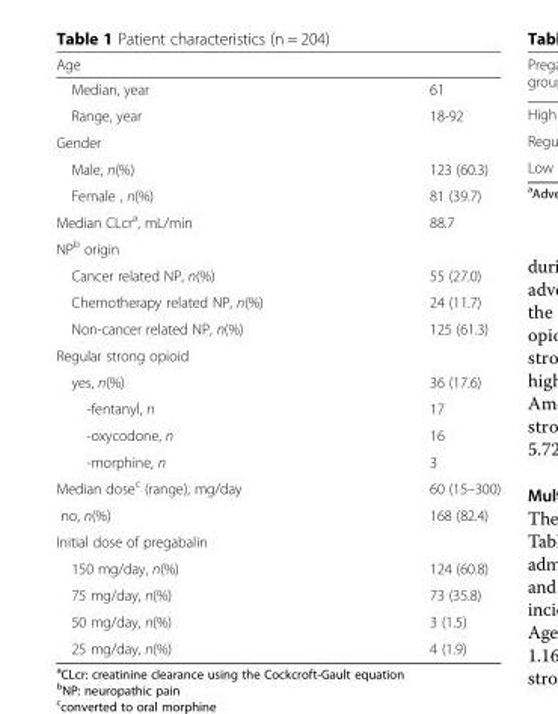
<table><thead><tr><td>Age</td><td></td></tr></thead><tbody><tr><td>Median, year</td><td>61</td></tr><tr><td>Range, year</td><td>18-92</td></tr><tr><td colspan="2">Gender</td></tr><tr><td>Male, n(%)</td><td>123 (60.3)</td></tr><tr><td>Female , n(%)</td><td>81 (39.7)</td></tr><tr><td>Median CLcr<sup>a</sup>, mL/min</td><td>88.7</td></tr><tr><td colspan="2">NP<sup>b</sup> origin</td></tr><tr><td>Cancer related NP, n(%)</td><td>55 (27.0)</td></tr><tr><td>Chemotherapy related NP, n(%)</td><td>24 (11.7)</td></tr><tr><td>Non-cancer related NP, n(%)</td><td>125 (61.3)</td></tr><tr><td colspan="2">Regular strong opioid</td></tr><tr><td>yes, n(%)</td><td>36 (17.6)</td></tr><tr><td>-fentanyl, n</td><td>17</td></tr><tr><td>-oxycodone, n</td><td>16</td></tr><tr><td>-morphine, n</td><td>3</td></tr><tr><td>Median dose<sup>c</sup> (range), mg/day</td><td>60 (15–300)</td></tr><tr><td>no, n(%)</td><td>168 (82.4)</td></tr><tr><td colspan="2">Initial dose of pregabalin</td></tr><tr><td>150 mg/day, n(%)</td><td>124 (60.8)</td></tr><tr><td>75 mg/day, n(%)</td><td>73 (35.8)</td></tr><tr><td>50 mg/day, n(%)</td><td>3 (1.5)</td></tr><tr><td>25 mg/day, n(%)</td><td>4 (1.9)</td></tr></tbody></table>